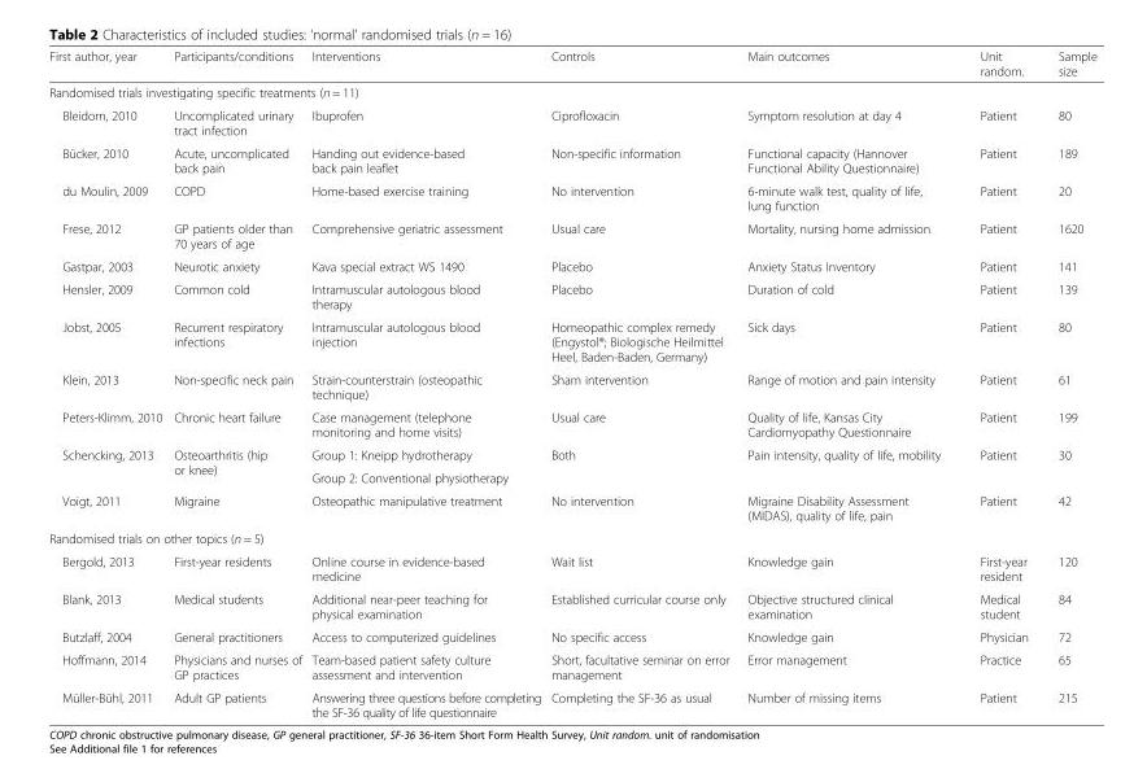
<table><thead><tr><td>First author, year</td><td>Participants/conditions</td><td>Interventions</td><td>Controls</td><td>Main outcomes</td><td>Unit random.</td><td>Sample size</td></tr></thead><tbody><tr><td colspan="7">Randomised trials investigating specific treatments (n = 11)</td></tr><tr><td>Bleidorn, 2010</td><td>Uncomplicated urinary tract infection</td><td>Ibuprofen</td><td>Ciprofloxacin</td><td>Symptom resolution at day 4</td><td>Patient</td><td>80</td></tr><tr><td>Bücker, 2010</td><td>Acute, uncomplicated back pain</td><td>Handing out evidence-based back pain leaflet</td><td>Non-specific information</td><td>Functional capacity (Hannover Functional Ability Questionnaire)</td><td>Patient</td><td>189</td></tr><tr><td>du Moulin, 2009</td><td>COPD</td><td>Home-based exercise training</td><td>No intervention</td><td>6-minute walk test, quality of life, lung function</td><td>Patient</td><td>20</td></tr><tr><td>Frese, 2012</td><td>GP patients older than 70 years of age</td><td>Comprehensive geriatric assessment</td><td>Usual care</td><td>Mortality, nursing home admission</td><td>Patient</td><td>1620</td></tr><tr><td>Gastpar, 2003</td><td>Neurotic anxiety</td><td>Kava special extract WS 1490</td><td>Placebo</td><td>Anxiety Status Inventory</td><td>Patient</td><td>141</td></tr><tr><td>Hensler, 2009</td><td>Common cold</td><td>Intramuscular autologous blood therapy</td><td>Placebo</td><td>Duration of cold</td><td>Patient</td><td>139</td></tr><tr><td>Jobst, 2005</td><td>Recurrent respiratory infections</td><td>Intramuscular autologous blood injection</td><td>Homeopathic complex remedy (Engystol®; Biologische Heilmittel Heel, Baden-Baden, Germany)</td><td>Sick days</td><td>Patient</td><td>80</td></tr><tr><td>Klein, 2013</td><td>Non-specific neck pain</td><td>Strain-counterstrain (osteopathic technique)</td><td>Sham intervention</td><td>Range of motion and pain intensity</td><td>Patient</td><td>61</td></tr><tr><td>Peters-Klimm, 2010</td><td>Chronic heart failure</td><td>Case management (telephone monitoring and home visits)</td><td>Usual care</td><td>Quality of life, Kansas City Cardiomyopathy Questionnaire</td><td>Patient</td><td>199</td></tr><tr><td rowspan="2">Schencking, 2013</td><td rowspan="2">Osteoarthritis (hip or knee)</td><td>Group 1: Kneipp hydrotherapy</td><td rowspan="2">Both</td><td rowspan="2">Pain intensity, quality of life, mobility</td><td rowspan="2">Patient</td><td rowspan="2">30</td></tr><tr><td>Group 2: Conventional physiotherapy</td></tr><tr><td>Voigt, 2011</td><td>Migraine</td><td>Osteopathic manipulative treatment</td><td>No intervention</td><td>Migraine Disability Assessment (MIDAS), quality of life, pain</td><td>Patient</td><td>42</td></tr><tr><td colspan="7">Randomised trials on other topics (n = 5)</td></tr><tr><td>Bergold, 2013</td><td>First-year residents</td><td>Online course in evidence-based medicine</td><td>Wait list</td><td>Knowledge gain</td><td>First-year resident</td><td>120</td></tr><tr><td>Blank, 2013</td><td>Medical students</td><td>Additional near-peer teaching for physical examination</td><td>Established curricular course only</td><td>Objective structured clinical examination</td><td>Medical student</td><td>84</td></tr><tr><td>Butzlaff, 2004</td><td>General practitioners</td><td>Access to computerized guidelines</td><td>No specific access</td><td>Knowledge gain</td><td>Physician</td><td>72</td></tr><tr><td>Hoffmann, 2014</td><td>Physicians and nurses of GP practices</td><td>Team-based patient safety culture assessment and intervention</td><td>Short, facultative seminar on error management</td><td>Error management</td><td>Practice</td><td>65</td></tr><tr><td>Müller-Bühl, 2011</td><td>Adult GP patients</td><td>Answering three questions before completing the SF-36 quality of life questionnaire</td><td>Completing the SF-36 as usual</td><td>Number of missing items</td><td>Patient</td><td>215</td></tr></tbody></table>